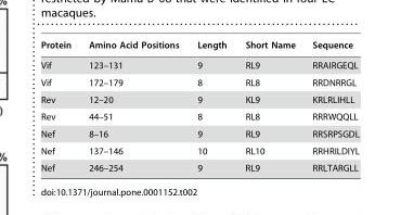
<table><thead><tr><td>Protein</td><td>Amino Acid Positions</td><td>Length</td><td>Short Name</td><td>Sequence</td></tr></thead><tbody><tr><td>Vif</td><td>123–131</td><td>9</td><td>RL9</td><td>RRAIRGEQL</td></tr><tr><td>Vif</td><td>172–179</td><td>8</td><td>RL8</td><td>RRDNRRGL</td></tr><tr><td>Rev</td><td>12–20</td><td>9</td><td>KL9</td><td>KRLRLIHLL</td></tr><tr><td>Rev</td><td>44–51</td><td>8</td><td>RL8</td><td>RRRWQQLL</td></tr><tr><td>Nef</td><td>8–16</td><td>9</td><td>RL9</td><td>RRSRPSGDL</td></tr><tr><td>Nef</td><td>137–146</td><td>10</td><td>RL10</td><td>RRHRILDIYL</td></tr><tr><td>Nef</td><td>246–254</td><td>9</td><td>RL9</td><td>RRLTARGLL</td></tr></tbody></table>